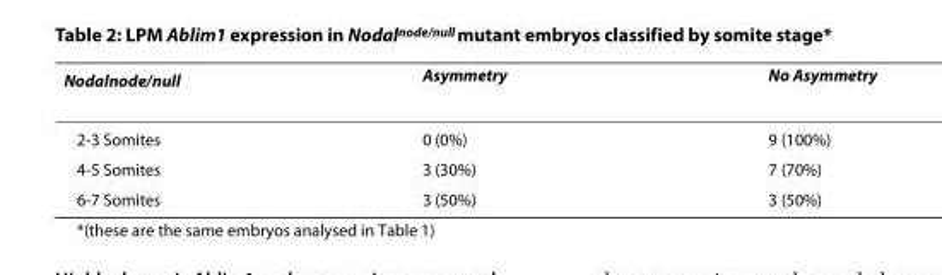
<table><thead><tr><td>Nodal<sup>node/null</sup></td><td>Asymmetry</td><td>No Asymmetry</td></tr></thead><tbody><tr><td>2-3 Somites</td><td>0 (0%)</td><td>9 (100%)</td></tr><tr><td>4-5 Somites</td><td>3 (30%)</td><td>7 (70%)</td></tr><tr><td>6-7 Somites</td><td>3 (50%)</td><td>3 (50%)</td></tr></tbody></table>